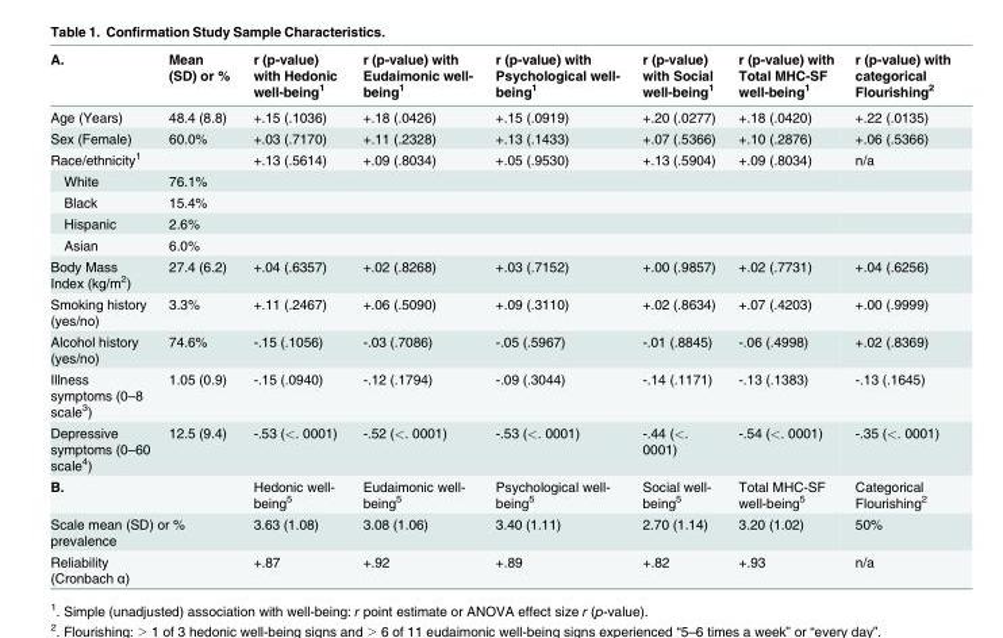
<table><thead><tr><td>A.</td><td>Mean (SD) or %</td><td>r (p-value) with Hedonic well-being<sup>1</sup></td><td>r (p-value) with Eudaimonic well- being<sup>1</sup></td><td>r (p-value) with Psychological well- being<sup>1</sup></td><td>r (p-value) with Social well-being<sup>1</sup></td><td>r (p-value) with Total MHC-SF well-being<sup>1</sup></td><td>r (p-value) with categorical Flourishing<sup>2</sup></td></tr></thead><tbody><tr><td>Age (Years)</td><td>48.4 (8.8)</td><td>+.15 (.1036)</td><td>+.18 (.0426)</td><td>+.15 (.0919)</td><td>+.20 (.0277)</td><td>+.18 (.0420)</td><td>+.22 (.0135)</td></tr><tr><td>Sex (Female)</td><td>60.0%</td><td>+.03 (.7170)</td><td>+.11 (.2328)</td><td>+.13 (.1433)</td><td>+.07 (.5366)</td><td>+.10 (.2876)</td><td>+.06 (.5366)</td></tr><tr><td>Race/ethnicity<sup>1</sup></td><td></td><td>+.13 (.5614)</td><td>+.09 (.8034)</td><td>+.05 (.9530)</td><td>+.13 (.5904)</td><td>+.09 (.8034)</td><td>n/a</td></tr><tr><td>White</td><td>76.1%</td><td></td><td></td><td></td><td></td><td></td><td></td></tr><tr><td>Black</td><td>15.4%</td><td></td><td></td><td></td><td></td><td></td><td></td></tr><tr><td>Hispanic</td><td>2.6%</td><td></td><td></td><td></td><td></td><td></td><td></td></tr><tr><td>Asian</td><td>6.0%</td><td></td><td></td><td></td><td></td><td></td><td></td></tr><tr><td>Body Mass Index (kg/m<sup>2</sup>)</td><td>27.4 (6.2)</td><td>+.04 (.6357)</td><td>+.02 (.8268)</td><td>+.03 (.7152)</td><td>+.00 (.9857)</td><td>+.02 (.7731)</td><td>+.04 (.6256)</td></tr><tr><td>Smoking history (yes/no)</td><td>3.3%</td><td>+.11 (.2467)</td><td>+.06 (.5090)</td><td>+.09 (.3110)</td><td>+.02 (.8634)</td><td>+.07 (.4203)</td><td>+.00 (.9999)</td></tr><tr><td>Alcohol history (yes/no)</td><td>74.6%</td><td>-.15 (.1056)</td><td>-.03 (.7086)</td><td>-.05 (.5967)</td><td>-.01 (.8845)</td><td>-.06 (.4998)</td><td>+.02 (.8369)</td></tr><tr><td>Illness symptoms (0–8 scale<sup>3</sup>)</td><td>1.05 (0.9)</td><td>-.15 (.0940)</td><td>-.12 (.1794)</td><td>-.09 (.3044)</td><td>-.14 (.1171)</td><td>-.13 (.1383)</td><td>-.13 (.1645)</td></tr><tr><td>Depressive symptoms (0–60 scale<sup>4</sup>)</td><td>12.5 (9.4)</td><td>-.53 (&lt;. 0001)</td><td>-.52 (&lt;. 0001)</td><td>-.53 (&lt;. 0001)</td><td>-.44 (&lt;. 0001)</td><td>-.54 (&lt;. 0001)</td><td>-.35 (&lt;. 0001)</td></tr><tr><td colspan="2">B.</td><td>Hedonic well- being<sup>5</sup></td><td>Eudaimonic well- being<sup>5</sup></td><td>Psychological well- being<sup>5</sup></td><td>Social well- being<sup>5</sup></td><td>Total MHC-SF well-being<sup>5</sup></td><td>Categorical Flourishing<sup>2</sup></td></tr><tr><td colspan="2">Scale mean (SD) or % prevalence</td><td>3.63 (1.08)</td><td>3.08 (1.06)</td><td>3.40 (1.11)</td><td>2.70 (1.14)</td><td>3.20 (1.02)</td><td>50%</td></tr><tr><td>Reliability (Cronbach α)</td><td></td><td>+.87</td><td>+.92</td><td>+.89</td><td>+.82</td><td>+.93</td><td>n/a</td></tr></tbody></table>